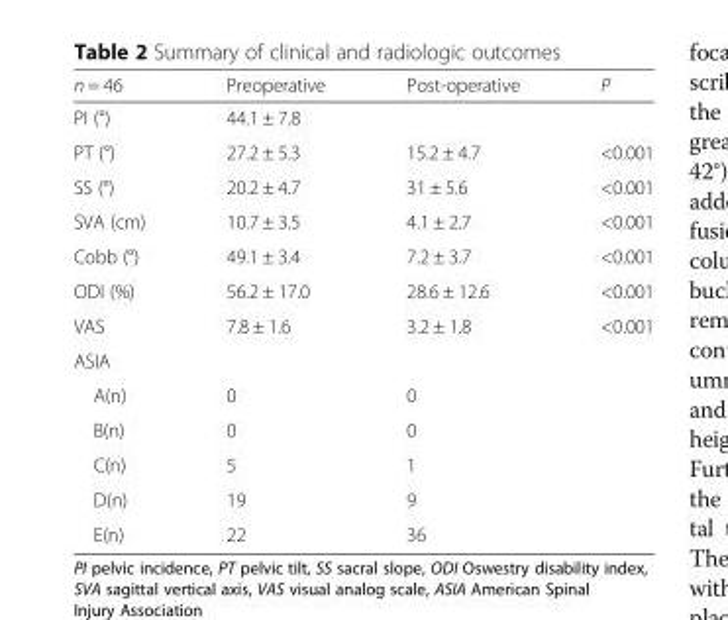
<table><thead><tr><td>n = 46</td><td>Preoperative</td><td>Post-operative</td><td>P</td></tr></thead><tbody><tr><td>PI (°)</td><td>44.1 ± 7.8</td><td></td><td></td></tr><tr><td>PT (°)</td><td>27.2 ± 5.3</td><td>15.2 ± 4.7</td><td>&lt;0.001</td></tr><tr><td>SS (°)</td><td>20.2 ± 4.7</td><td>31 ± 5.6</td><td>&lt;0.001</td></tr><tr><td>SVA (cm)</td><td>10.7 ± 3.5</td><td>4.1 ± 2.7</td><td>&lt;0.001</td></tr><tr><td>Cobb (°)</td><td>49.1 ± 3.4</td><td>7.2 ± 3.7</td><td>&lt;0.001</td></tr><tr><td>ODI (%)</td><td>56.2 ± 17.0</td><td>28.6 ± 12.6</td><td>&lt;0.001</td></tr><tr><td>VAS</td><td>7.8 ± 1.6</td><td>3.2 ± 1.8</td><td>&lt;0.001</td></tr><tr><td colspan="4">ASIA</td></tr><tr><td>A(n)</td><td>0</td><td>0</td><td></td></tr><tr><td>B(n)</td><td>0</td><td>0</td><td></td></tr><tr><td>C(n)</td><td>5</td><td>1</td><td></td></tr><tr><td>D(n)</td><td>19</td><td>9</td><td></td></tr><tr><td>E(n)</td><td>22</td><td>36</td><td></td></tr></tbody></table>